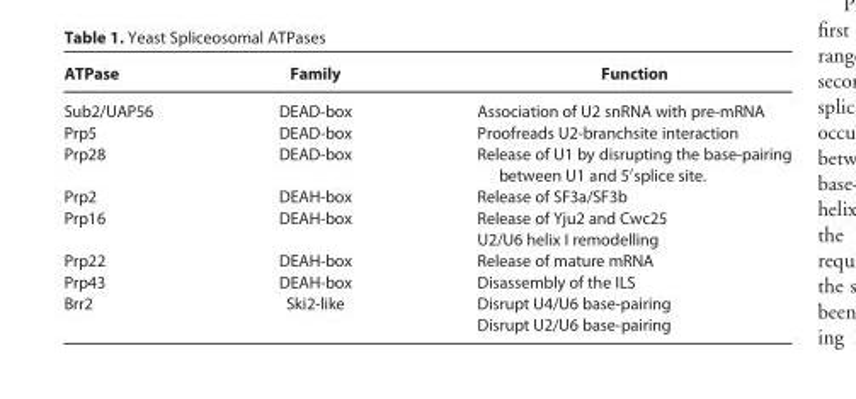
<table><thead><tr><td>ATPase</td><td>Family</td><td>Function</td></tr></thead><tbody><tr><td>Sub2/UAP56</td><td>DEAD-box</td><td>Association of U2 snRNA with pre-mRNA</td></tr><tr><td>Prp5</td><td>DEAD-box</td><td>Proofreads U2-branchsite interaction</td></tr><tr><td>Prp28</td><td>DEAD-box</td><td>Release of U1 by disrupting the base-pairing between U1 and 5′splice site.</td></tr><tr><td>Prp2</td><td>DEAH-box</td><td>Release of SF3a/SF3b</td></tr><tr><td rowspan="2">Prp16</td><td>DEAH-box</td><td>Release of Yju2 and Cwc25</td></tr><tr><td></td><td>U2/U6 helix I remodelling</td></tr><tr><td>Prp22</td><td>DEAH-box</td><td>Release of mature mRNA</td></tr><tr><td>Prp43</td><td>DEAH-box</td><td>Disassembly of the ILS</td></tr><tr><td rowspan="2">Brr2</td><td>Ski2-like</td><td>Disrupt U4/U6 base-pairing</td></tr><tr><td></td><td>Disrupt U2/U6 base-pairing</td></tr></tbody></table>